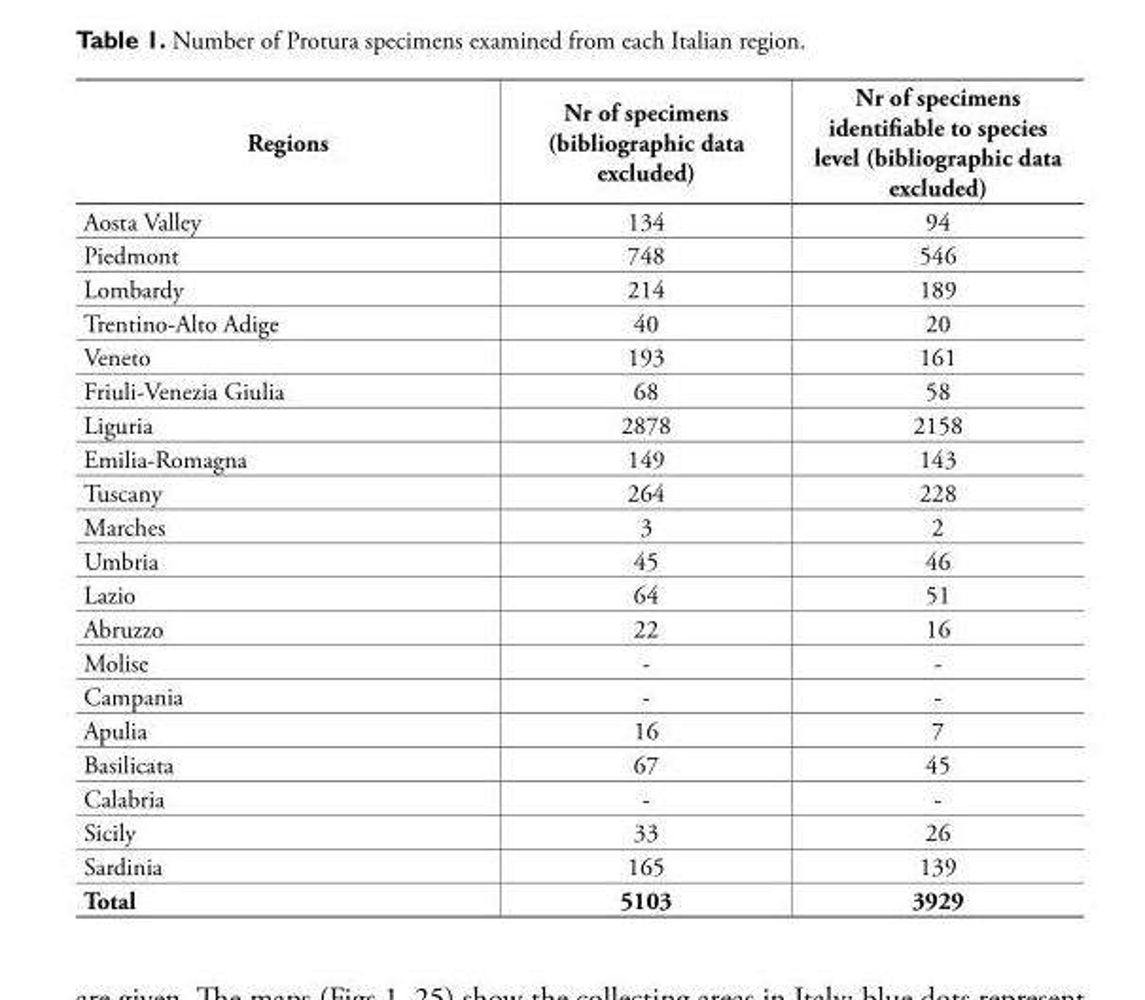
<table><tbody><tr><td>Regions</td><td>Nr of specimens (bibliographic data excluded)</td><td>Nr of specimens identifiable to species level (bibliographic data excluded)</td></tr><tr><td>Aosta Valley</td><td>134</td><td>94</td></tr><tr><td>Piedmont</td><td>748</td><td>546</td></tr><tr><td>Lombardy</td><td>214</td><td>189</td></tr><tr><td>Trentino-Alto Adige</td><td>40</td><td>20</td></tr><tr><td>Veneto</td><td>193</td><td>161</td></tr><tr><td>Friuli-Venezia Giulia</td><td>68</td><td>58</td></tr><tr><td>Liguria</td><td>2878</td><td>2158</td></tr><tr><td>Emilia-Romagna</td><td>149</td><td>143</td></tr><tr><td>Tuscany</td><td>264</td><td>228</td></tr><tr><td>Marches</td><td>3</td><td>2</td></tr><tr><td>Umbria</td><td>45</td><td>46</td></tr><tr><td>Lazio</td><td>64</td><td>51</td></tr><tr><td>Abruzzo</td><td>22</td><td>16</td></tr><tr><td>Molise</td><td>-</td><td>-</td></tr><tr><td>Campania</td><td>-</td><td>-</td></tr><tr><td>Apulia</td><td>16</td><td>7</td></tr><tr><td>Basilicata</td><td>67</td><td>45</td></tr><tr><td>Calabria</td><td>-</td><td>-</td></tr><tr><td>Sicily</td><td>33</td><td>26</td></tr><tr><td>Sardinia</td><td>165</td><td>139</td></tr><tr><td>Total</td><td>5103</td><td>3929</td></tr></tbody></table>